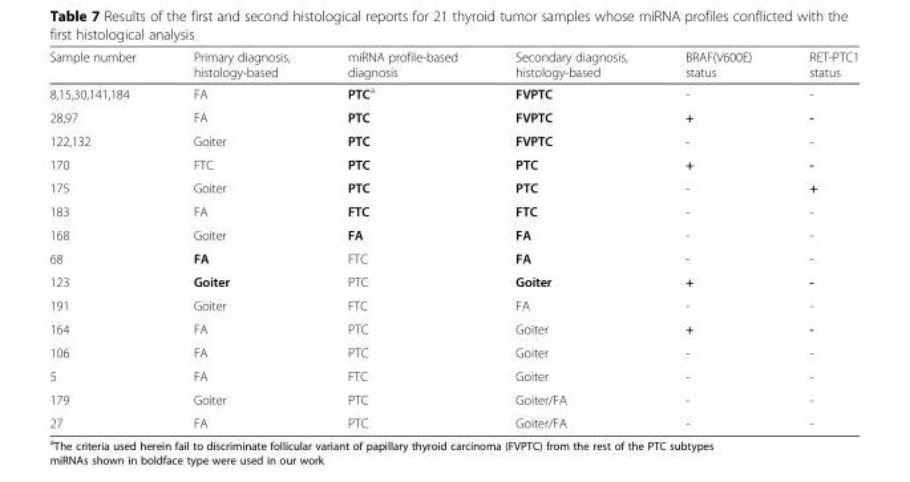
<table><thead><tr><td>Sample number</td><td>Primary diagnosis, histology-based</td><td>miRNA profile-based diagnosis</td><td>Secondary diagnosis, histology-based</td><td>BRAF(V600E) status</td><td>RET-PTC1 status</td></tr></thead><tbody><tr><td>8,15,30,141,184</td><td>FA</td><td>PTC<sup>a</sup></td><td>FVPTC</td><td>-</td><td>-</td></tr><tr><td>28,97</td><td>FA</td><td>PTC</td><td>FVPTC</td><td>+</td><td>-</td></tr><tr><td>122,132</td><td>Goiter</td><td>PTC</td><td>FVPTC</td><td>-</td><td>-</td></tr><tr><td>170</td><td>FTC</td><td>PTC</td><td>PTC</td><td>+</td><td>-</td></tr><tr><td>175</td><td>Goiter</td><td>PTC</td><td>PTC</td><td>-</td><td>+</td></tr><tr><td>183</td><td>FA</td><td>FTC</td><td>FTC</td><td>-</td><td>-</td></tr><tr><td>168</td><td>Goiter</td><td>FA</td><td>FA</td><td>-</td><td>-</td></tr><tr><td>68</td><td>FA</td><td>FTC</td><td>FA</td><td>-</td><td>-</td></tr><tr><td>123</td><td>Goiter</td><td>PTC</td><td>Goiter</td><td>+</td><td>-</td></tr><tr><td>191</td><td>Goiter</td><td>FTC</td><td>FA</td><td>-</td><td>-</td></tr><tr><td>164</td><td>FA</td><td>PTC</td><td>Goiter</td><td>+</td><td>-</td></tr><tr><td>106</td><td>FA</td><td>PTC</td><td>Goiter</td><td>-</td><td>-</td></tr><tr><td>5</td><td>FA</td><td>FTC</td><td>Goiter</td><td>-</td><td>-</td></tr><tr><td>179</td><td>Goiter</td><td>PTC</td><td>Goiter/FA</td><td>-</td><td>-</td></tr><tr><td>27</td><td>FA</td><td>PTC</td><td>Goiter/FA</td><td>-</td><td>-</td></tr></tbody></table>